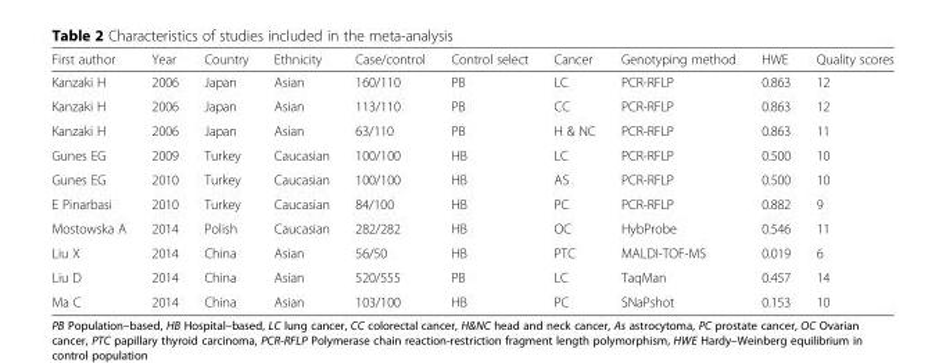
<table><thead><tr><td>First author</td><td>Year</td><td>Country</td><td>Ethnicity</td><td>Case/control</td><td>Control select</td><td>Cancer</td><td>Genotyping method</td><td>HWE</td><td>Quality scores</td></tr></thead><tbody><tr><td>Kanzaki H</td><td>2006</td><td>Japan</td><td>Asian</td><td>160/110</td><td>PB</td><td>LC</td><td>PCR-RFLP</td><td>0.863</td><td>12</td></tr><tr><td>Kanzaki H</td><td>2006</td><td>Japan</td><td>Asian</td><td>113/110</td><td>PB</td><td>CC</td><td>PCR-RFLP</td><td>0.863</td><td>12</td></tr><tr><td>Kanzaki H</td><td>2006</td><td>Japan</td><td>Asian</td><td>63/110</td><td>PB</td><td>H &amp; NC</td><td>PCR-RFLP</td><td>0.863</td><td>11</td></tr><tr><td>Gunes EG</td><td>2009</td><td>Turkey</td><td>Caucasian</td><td>100/100</td><td>HB</td><td>LC</td><td>PCR-RFLP</td><td>0.500</td><td>10</td></tr><tr><td>Gunes EG</td><td>2010</td><td>Turkey</td><td>Caucasian</td><td>100/100</td><td>HB</td><td>AS</td><td>PCR-RFLP</td><td>0.500</td><td>10</td></tr><tr><td>E Pinarbasi</td><td>2010</td><td>Turkey</td><td>Caucasian</td><td>84/100</td><td>HB</td><td>PC</td><td>PCR-RFLP</td><td>0.882</td><td>9</td></tr><tr><td>Mostowska A</td><td>2014</td><td>Polish</td><td>Caucasian</td><td>282/282</td><td>HB</td><td>OC</td><td>HybProbe</td><td>0.546</td><td>11</td></tr><tr><td>Liu X</td><td>2014</td><td>China</td><td>Asian</td><td>56/50</td><td>HB</td><td>PTC</td><td>MALDI-TOF-MS</td><td>0.019</td><td>6</td></tr><tr><td>Liu D</td><td>2014</td><td>China</td><td>Asian</td><td>520/555</td><td>PB</td><td>LC</td><td>TaqMan</td><td>0.457</td><td>14</td></tr><tr><td>Ma C</td><td>2014</td><td>China</td><td>Asian</td><td>103/100</td><td>HB</td><td>PC</td><td>SNaPshot</td><td>0.153</td><td>10</td></tr></tbody></table>